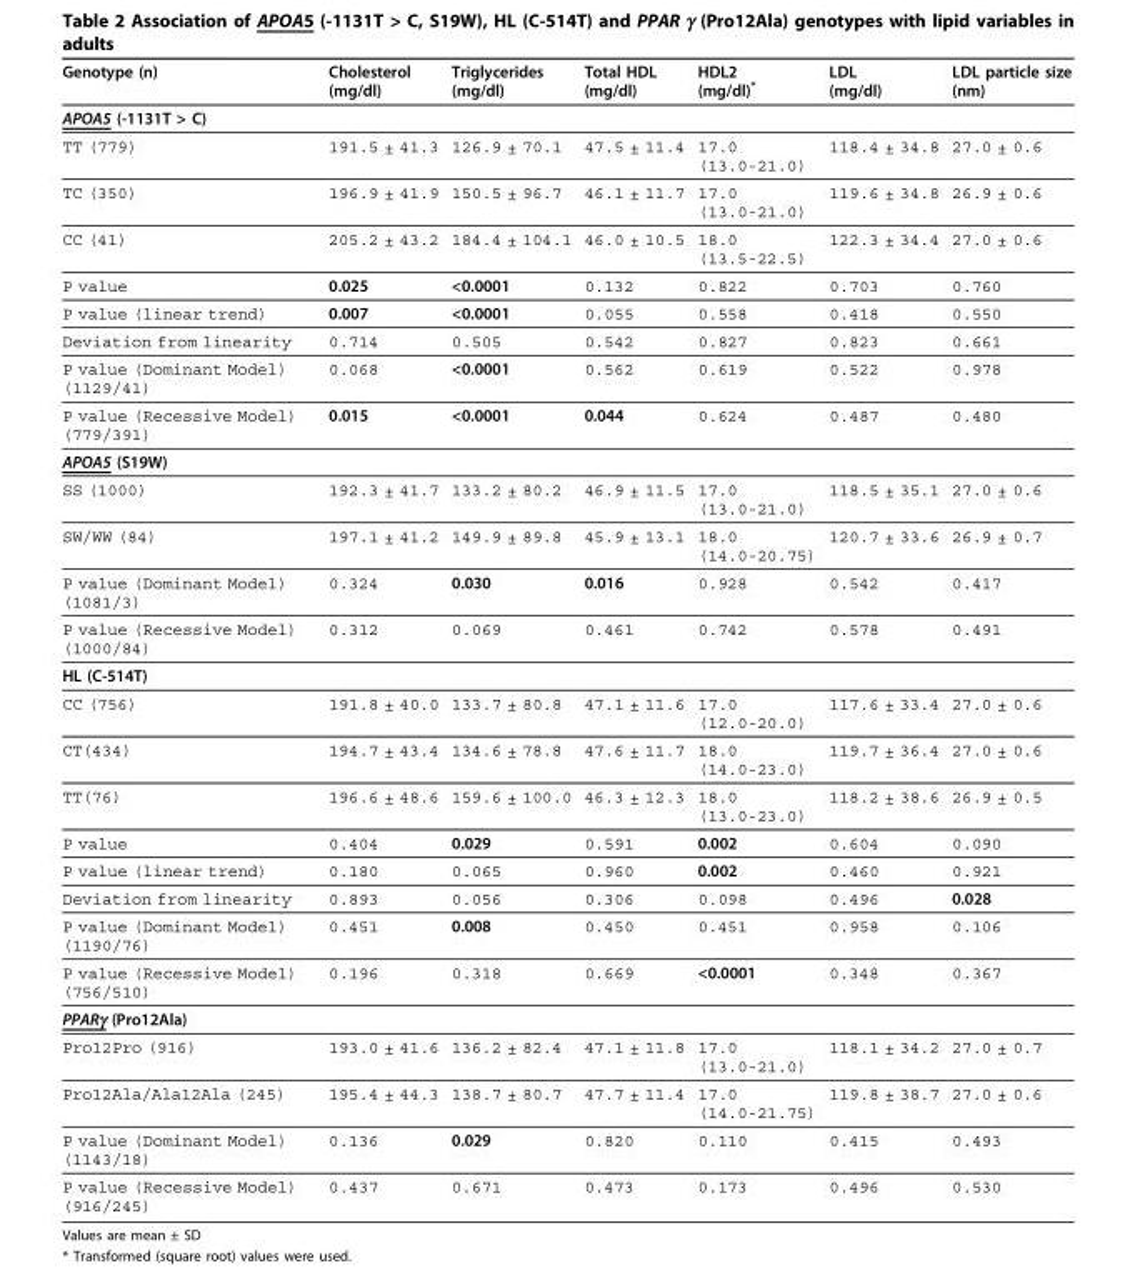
<table><thead><tr><td>Genotype (n)</td><td>Cholesterol (mg/dl)</td><td>Triglycerides (mg/dl)</td><td>Total HDL (mg/dl)</td><td>HDL2 (mg/dl)*</td><td>LDL (mg/dl)</td><td>LDL particle size (nm)</td></tr></thead><tbody><tr><td colspan="7">APOA5 (-1131T &gt; C)</td></tr><tr><td>TT (779)</td><td>191.5 ± 41.3</td><td>126.9 ± 70.1</td><td>47.5 ± 11.4</td><td>17.0 (13.0-21.0)</td><td>118.4 ± 34.8</td><td>27.0 ± 0.6</td></tr><tr><td>TC (350)</td><td>196.9 ± 41.9</td><td>150.5 ± 96.7</td><td>46.1 ± 11.7</td><td>17.0 (13.0-21.0)</td><td>119.6 ± 34.8</td><td>26.9 ± 0.6</td></tr><tr><td>CC (41)</td><td>205.2 ± 43.2</td><td>184.4 ± 104.1</td><td>46.0 ± 10.5</td><td>18.0 (13.5-22.5)</td><td>122.3 ± 34.4</td><td>27.0 ± 0.6</td></tr><tr><td>P value</td><td>0.025</td><td>&lt;0.0001</td><td>0.132</td><td>0.822</td><td>0.703</td><td>0.760</td></tr><tr><td>P value (linear trend)</td><td>0.007</td><td>&lt;0.0001</td><td>0.055</td><td>0.558</td><td>0.418</td><td>0.550</td></tr><tr><td>Deviation from linearity</td><td>0.714</td><td>0.505</td><td>0.542</td><td>0.827</td><td>0.823</td><td>0.661</td></tr><tr><td>P value (Dominant Model) (1129/41)</td><td>0.068</td><td>&lt;0.0001</td><td>0.562</td><td>0.619</td><td>0.522</td><td>0.978</td></tr><tr><td>P value (Recessive Model) (779/391)</td><td>0.015</td><td>&lt;0.0001</td><td>0.044</td><td>0.624</td><td>0.487</td><td>0.480</td></tr><tr><td colspan="7">APOA5 (S19W)</td></tr><tr><td>SS (1000)</td><td>192.3 ± 41.7</td><td>133.2 ± 80.2</td><td>46.9 ± 11.5</td><td>17.0 (13.0-21.0)</td><td>118.5 ± 35.1</td><td>27.0 ± 0.6</td></tr><tr><td>SW/WW (84)</td><td>197.1 ± 41.2</td><td>149.9 ± 89.8</td><td>45.9 ± 13.1</td><td>18.0 (14.0-20.75)</td><td>120.7 ± 33.6</td><td>26.9 ± 0.7</td></tr><tr><td>P value (Dominant Model) (1081/3)</td><td>0.324</td><td>0.030</td><td>0.016</td><td>0.928</td><td>0.542</td><td>0.417</td></tr><tr><td>P value (Recessive Model) (1000/84)</td><td>0.312</td><td>0.069</td><td>0.461</td><td>0.742</td><td>0.578</td><td>0.491</td></tr><tr><td colspan="7">HL (C-514T)</td></tr><tr><td>CC (756)</td><td>191.8 ± 40.0</td><td>133.7 ± 80.8</td><td>47.1 ± 11.6</td><td>17.0 (12.0-20.0)</td><td>117.6 ± 33.4</td><td>27.0 ± 0.6</td></tr><tr><td>CT(434)</td><td>194.7 ± 43.4</td><td>134.6 ± 78.8</td><td>47.6 ± 11.7</td><td>18.0 (14.0-23.0)</td><td>119.7 ± 36.4</td><td>27.0 ± 0.6</td></tr><tr><td>TT(76)</td><td>196.6 ± 48.6</td><td>159.6 ± 100.0</td><td>46.3 ± 12.3</td><td>18.0 (13.0-23.0)</td><td>118.2 ± 38.6</td><td>26.9 ± 0.5</td></tr><tr><td>P value</td><td>0.404</td><td>0.029</td><td>0.591</td><td>0.002</td><td>0.604</td><td>0.090</td></tr><tr><td>P value (linear trend)</td><td>0.180</td><td>0.065</td><td>0.960</td><td>0.002</td><td>0.460</td><td>0.921</td></tr><tr><td>Deviation from linearity</td><td>0.893</td><td>0.056</td><td>0.306</td><td>0.098</td><td>0.496</td><td>0.028</td></tr><tr><td>P value (Dominant Model) (1190/76)</td><td>0.451</td><td>0.008</td><td>0.450</td><td>0.451</td><td>0.958</td><td>0.106</td></tr><tr><td>P value (Recessive Model) (756/510)</td><td>0.196</td><td>0.318</td><td>0.669</td><td>&lt;0.0001</td><td>0.348</td><td>0.367</td></tr><tr><td colspan="7">PPARγ (Pro12Ala)</td></tr><tr><td>Pro12Pro (916)</td><td>193.0 ± 41.6</td><td>136.2 ± 82.4</td><td>47.1 ± 11.8</td><td>17.0 (13.0-21.0)</td><td>118.1 ± 34.2</td><td>27.0 ± 0.7</td></tr><tr><td>Pro12Ala/Ala12Ala (245)</td><td>195.4 ± 44.3</td><td>138.7 ± 80.7</td><td>47.7 ± 11.4</td><td>17.0 (14.0-21.75)</td><td>119.8 ± 38.7</td><td>27.0 ± 0.6</td></tr><tr><td>P value (Dominant Model) (1143/18)</td><td>0.136</td><td>0.029</td><td>0.820</td><td>0.110</td><td>0.415</td><td>0.493</td></tr><tr><td>P value (Recessive Model) (916/245)</td><td>0.437</td><td>0.671</td><td>0.473</td><td>0.173</td><td>0.496</td><td>0.530</td></tr></tbody></table>